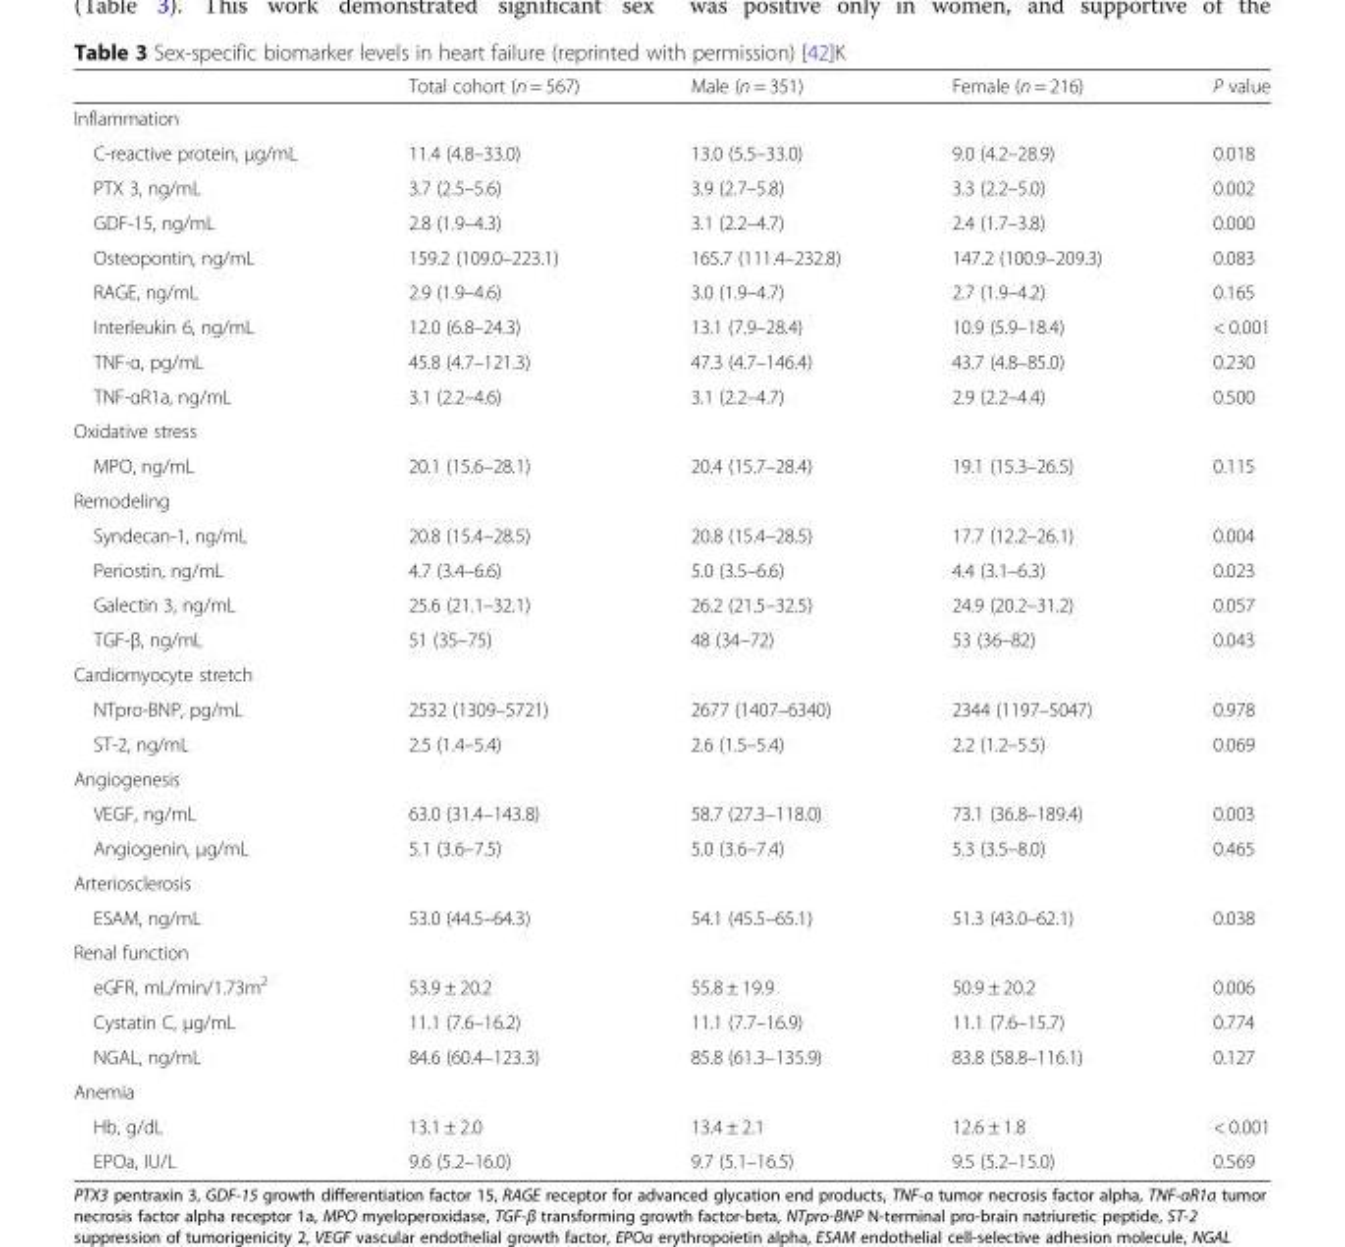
<table><thead><tr><td></td><td>Total cohort (n = 567)</td><td>Male (n = 351)</td><td>Female (n = 216)</td><td>P value</td></tr></thead><tbody><tr><td colspan="5">Inflammation</td></tr><tr><td>C-reactive protein, μg/mL</td><td>11.4 (4.8–33.0)</td><td>13.0 (5.5–33.0)</td><td>9.0 (4.2–28.9)</td><td>0.018</td></tr><tr><td>PTX 3, ng/mL</td><td>3.7 (2.5–5.6)</td><td>3.9 (2.7–5.8)</td><td>3.3 (2.2–5.0)</td><td>0.002</td></tr><tr><td>GDF-15, ng/mL</td><td>2.8 (1.9–4.3)</td><td>3.1 (2.2–4.7)</td><td>2.4 (1.7–3.8)</td><td>0.000</td></tr><tr><td>Osteopontin, ng/mL</td><td>159.2 (109.0–223.1)</td><td>165.7 (111.4–232.8)</td><td>147.2 (100.9–209.3)</td><td>0.083</td></tr><tr><td>RAGE, ng/mL</td><td>2.9 (1.9–4.6)</td><td>3.0 (1.9–4.7)</td><td>2.7 (1.9–4.2)</td><td>0.165</td></tr><tr><td>Interleukin 6, ng/mL</td><td>12.0 (6.8–24.3)</td><td>13.1 (7.9–28.4)</td><td>10.9 (5.9–18.4)</td><td>&lt; 0.001</td></tr><tr><td>TNF-α, pg/mL</td><td>45.8 (4.7–121.3)</td><td>47.3 (4.7–146.4)</td><td>43.7 (4.8–85.0)</td><td>0.230</td></tr><tr><td>TNF-αR1a, ng/mL</td><td>3.1 (2.2–4.6)</td><td>3.1 (2.2–4.7)</td><td>2.9 (2.2–4.4)</td><td>0.500</td></tr><tr><td colspan="5">Oxidative stress</td></tr><tr><td>MPO, ng/mL</td><td>20.1 (15.6–28.1)</td><td>20.4 (15.7–28.4)</td><td>19.1 (15.3–26.5)</td><td>0.115</td></tr><tr><td colspan="5">Remodeling</td></tr><tr><td>Syndecan-1, ng/mL</td><td>20.8 (15.4–28.5)</td><td>20.8 (15.4–28.5)</td><td>17.7 (12.2–26.1)</td><td>0.004</td></tr><tr><td>Periostin, ng/mL</td><td>4.7 (3.4–6.6)</td><td>5.0 (3.5–6.6)</td><td>4.4 (3.1–6.3)</td><td>0.023</td></tr><tr><td>Galectin 3, ng/mL</td><td>25.6 (21.1–32.1)</td><td>26.2 (21.5–32.5)</td><td>24.9 (20.2–31.2)</td><td>0.057</td></tr><tr><td>TGF-β, ng/mL</td><td>51 (35–75)</td><td>48 (34–72)</td><td>53 (36–82)</td><td>0.043</td></tr><tr><td colspan="5">Cardiomyocyte stretch</td></tr><tr><td>NTpro-BNP, pg/mL</td><td>2532 (1309–5721)</td><td>2677 (1407–6340)</td><td>2344 (1197–5047)</td><td>0.978</td></tr><tr><td>ST-2, ng/mL</td><td>2.5 (1.4–5.4)</td><td>2.6 (1.5–5.4)</td><td>2.2 (1.2–5.5)</td><td>0.069</td></tr><tr><td colspan="5">Angiogenesis</td></tr><tr><td>VEGF, ng/mL</td><td>63.0 (31.4–143.8)</td><td>58.7 (27.3–118.0)</td><td>73.1 (36.8–189.4)</td><td>0.003</td></tr><tr><td>Angiogenin, μg/mL</td><td>5.1 (3.6–7.5)</td><td>5.0 (3.6–7.4)</td><td>5.3 (3.5–8.0)</td><td>0.465</td></tr><tr><td colspan="5">Arteriosclerosis</td></tr><tr><td>ESAM, ng/mL</td><td>53.0 (44.5–64.3)</td><td>54.1 (45.5–65.1)</td><td>51.3 (43.0–62.1)</td><td>0.038</td></tr><tr><td colspan="5">Renal function</td></tr><tr><td>eGFR, mL/min/1.73m<sup>2</sup></td><td>53.9 ± 20.2</td><td>55.8 ± 19.9</td><td>50.9 ± 20.2</td><td>0.006</td></tr><tr><td>Cystatin C, μg/mL</td><td>11.1 (7.6–16.2)</td><td>11.1 (7.7–16.9)</td><td>11.1 (7.6–15.7)</td><td>0.774</td></tr><tr><td>NGAL, ng/mL</td><td>84.6 (60.4–123.3)</td><td>85.8 (61.3–135.9)</td><td>83.8 (58.8–116.1)</td><td>0.127</td></tr><tr><td colspan="5">Anemia</td></tr><tr><td>Hb, g/dL</td><td>13.1 ± 2.0</td><td>13.4 ± 2.1</td><td>12.6 ± 1.8</td><td>&lt; 0.001</td></tr><tr><td>EPOa, IU/L</td><td>9.6 (5.2–16.0)</td><td>9.7 (5.1–16.5)</td><td>9.5 (5.2–15.0)</td><td>0.569</td></tr></tbody></table>